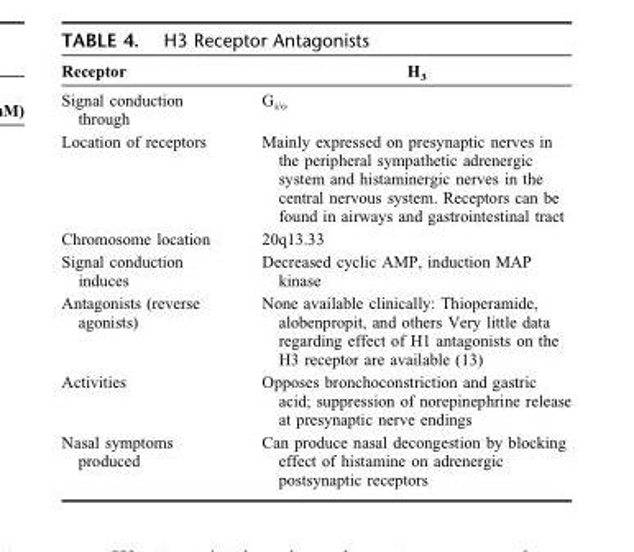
<table><thead><tr><td>Receptor</td><td>H<sub>3</sub></td></tr></thead><tbody><tr><td>Signal conduction through</td><td>G<sub>i/o</sub></td></tr><tr><td>Location of receptors</td><td>Mainly expressed on presynaptic nerves in the peripheral sympathetic adrenergic system and histaminergic nerves in the central nervous system. Receptors can be found in airways and gastrointestinal tract</td></tr><tr><td>Chromosome location</td><td>20q13.33</td></tr><tr><td>Signal conduction induces</td><td>Decreased cyclic AMP, induction MAP kinase</td></tr><tr><td>Antagonists (reverse agonists)</td><td>None available clinically: Thioperamide, alobenpropit, and others Very little data regarding effect of H1 antagonists on the H3 receptor are available (13)</td></tr><tr><td>Activities</td><td>Opposes bronchoconstriction and gastric acid; suppression of norepinephrine release at presynaptic nerve endings</td></tr><tr><td>Nasal symptoms produced</td><td>Can produce nasal decongestion by blocking effect of histamine on adrenergic postsynaptic receptors</td></tr></tbody></table>